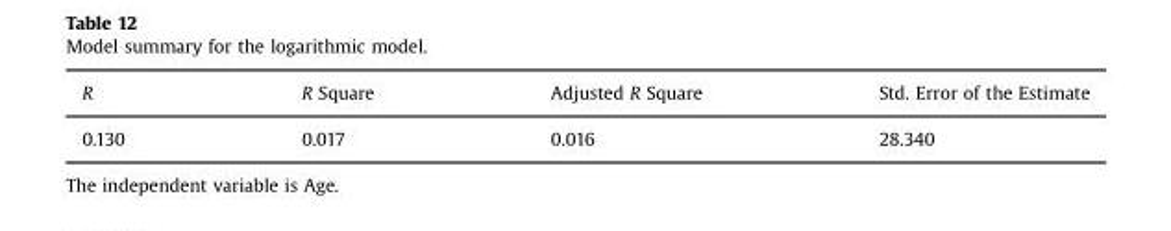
<table><thead><tr><td>R</td><td>R Square</td><td>Adjusted R Square</td><td>Std. Error of the Estimate</td></tr></thead><tbody><tr><td>0.130</td><td>0.017</td><td>0.016</td><td>28.340</td></tr></tbody></table>